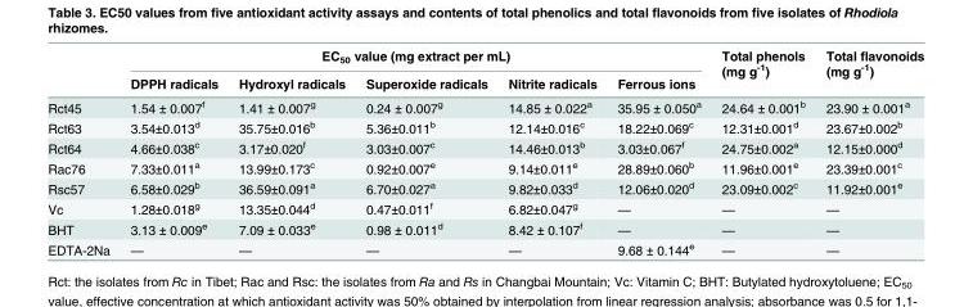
<table><thead><tr><td rowspan="2"></td><td colspan="5">EC<sub>50</sub> value (mg extract per mL)</td><td rowspan="2">Total phenols (mg g<sup>-1</sup>)</td><td rowspan="2">Total flavonoids (mg g<sup>-1</sup>)</td></tr><tr><td>DPPH radicals</td><td>Hydroxyl radicals</td><td>Superoxide radicals</td><td>Nitrite radicals</td><td>Ferrous ions</td></tr></thead><tbody><tr><td>Rct45</td><td>1.54 ± 0.007<sup>f</sup></td><td>1.41 ± 0.007<sup>g</sup></td><td>0.24 ± 0.007<sup>g</sup></td><td>14.85 ± 0.022<sup>a</sup></td><td>35.95 ± 0.050<sup>a</sup></td><td>24.64 ± 0.001<sup>b</sup></td><td>23.90 ± 0.001<sup>a</sup></td></tr><tr><td>Rct63</td><td>3.54±0.013<sup>d</sup></td><td>35.75±0.016<sup>b</sup></td><td>5.36±0.011<sup>b</sup></td><td>12.14±0.016<sup>c</sup></td><td>18.22±0.069<sup>c</sup></td><td>12.31±0.001<sup>d</sup></td><td>23.67±0.002<sup>b</sup></td></tr><tr><td>Rct64</td><td>4.66±0.038<sup>c</sup></td><td>3.17±0.020<sup>f</sup></td><td>3.03±0.007<sup>c</sup></td><td>14.46±0.013<sup>b</sup></td><td>3.03±0.067<sup>f</sup></td><td>24.75±0.002<sup>a</sup></td><td>12.15±0.000<sup>d</sup></td></tr><tr><td>Rac76</td><td>7.33±0.011<sup>a</sup></td><td>13.99±0.173<sup>c</sup></td><td>0.92±0.007<sup>e</sup></td><td>9.14±0.011<sup>e</sup></td><td>28.89±0.060<sup>b</sup></td><td>11.96±0.001<sup>e</sup></td><td>23.39±0.001<sup>c</sup></td></tr><tr><td>Rsc57</td><td>6.58±0.029<sup>b</sup></td><td>36.59±0.091<sup>a</sup></td><td>6.70±0.027<sup>a</sup></td><td>9.82±0.033<sup>d</sup></td><td>12.06±0.020<sup>d</sup></td><td>23.09±0.002<sup>c</sup></td><td>11.92±0.001<sup>e</sup></td></tr><tr><td>Vc</td><td>1.28±0.018<sup>g</sup></td><td>13.35±0.044<sup>d</sup></td><td>0.47±0.011<sup>f</sup></td><td>6.82±0.047<sup>g</sup></td><td>—</td><td>—</td><td>—</td></tr><tr><td>BHT</td><td>3.13 ± 0.009<sup>e</sup></td><td>7.09 ± 0.033<sup>e</sup></td><td>0.98 ± 0.011<sup>d</sup></td><td>8.42 ± 0.107<sup>f</sup></td><td>—</td><td>—</td><td>—</td></tr><tr><td>EDTA-2Na</td><td>—</td><td>—</td><td>—</td><td>—</td><td>9.68 ± 0.144<sup>e</sup></td><td>—</td><td>—</td></tr></tbody></table>